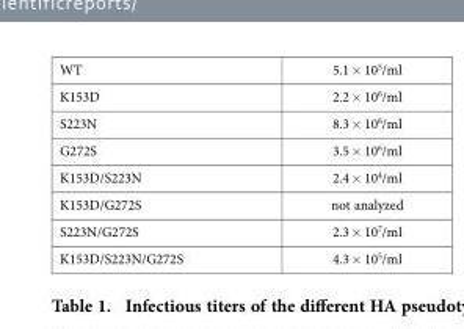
<table><tbody><tr><td>WT</td><td>5.1 × 10<sup>5</sup>/ml</td></tr><tr><td>K153D</td><td>2.2 × 10<sup>6</sup>/ml</td></tr><tr><td>S223N</td><td>8.3 × 10<sup>6</sup>/ml</td></tr><tr><td>G272S</td><td>3.5 × 10<sup>6</sup>/ml</td></tr><tr><td>K153D/S223N</td><td>2.4 × 10<sup>4</sup>/ml</td></tr><tr><td>K153D/G272S</td><td>not analyzed</td></tr><tr><td>S223N/G272S</td><td>2.3 × 10<sup>7</sup>/ml</td></tr><tr><td>K153D/S223N/G272S</td><td>4.3 × 10<sup>5</sup>/ml</td></tr></tbody></table>